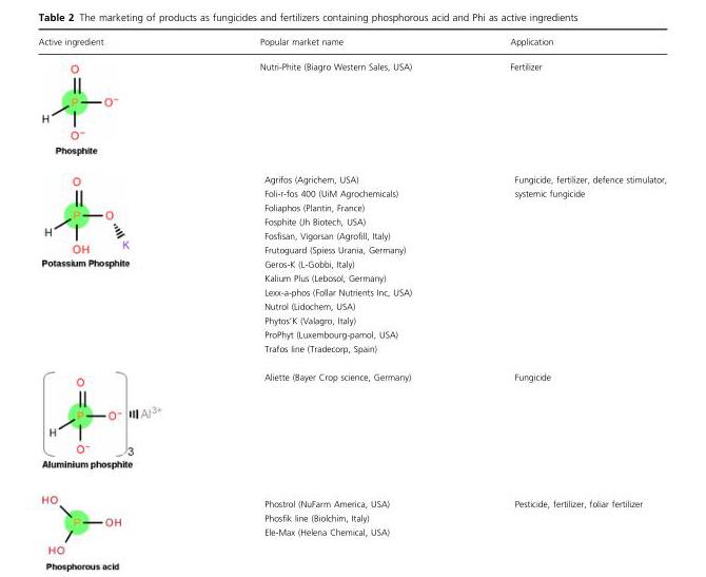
<table><thead><tr><td>Active ingredient</td><td>Popular market name</td><td>Application</td></tr></thead><tbody><tr><td></td><td>Nutri-Phite (Biagro Western Sales, USA)</td><td>Fertilizer</td></tr><tr><td></td><td>Agrifos (Agrichem, USA) Foli-r-fos 400 (UiM Agrochemicals) Foliaphos (Plantin, France) Fosphite (Jh Biotech, USA) Fosfisan, Vigorsan (Agrofill, Italy) Frutoguard (Spiess Urania, Germany) Geros-K (L-Gobbi, Italy) Kalium Plus (Lebosol, Germany) Lexx-a-phos (Follar Nutrients Inc, USA) Nutrol (Lidochem, USA) Phytos’K (Valagro, Italy) ProPhyt (Luxembourg-pamol, USA) Trafos line (Tradecorp, Spain)</td><td>Fungicide, fertilizer, defence stimulator, systemic fungicide</td></tr><tr><td></td><td>Aliette (Bayer Crop science, Germany)</td><td>Fungicide</td></tr><tr><td></td><td>Phostrol (NuFarm America, USA) Phosfik line (Biolchim, Italy) Ele-Max (Helena Chemical, USA)</td><td>Pesticide, fertilizer, foliar fertilizer</td></tr></tbody></table>